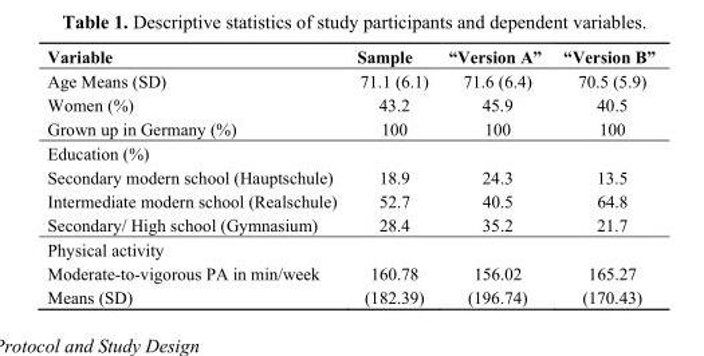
<table><thead><tr><td>Variable</td><td>Sample</td><td>“Version A”</td><td>“Version B”</td></tr></thead><tbody><tr><td>Age Means (SD)</td><td>71.1 (6.1)</td><td>71.6 (6.4)</td><td>70.5 (5.9)</td></tr><tr><td>Women (%)</td><td>43.2</td><td>45.9</td><td>40.5</td></tr><tr><td>Grown up in Germany (%)</td><td>100</td><td>100</td><td>100</td></tr><tr><td colspan="4">Education (%)</td></tr><tr><td>Secondary modern school (Hauptschule)</td><td>18.9</td><td>24.3</td><td>13.5</td></tr><tr><td>Intermediate modern school (Realschule)</td><td>52.7</td><td>40.5</td><td>64.8</td></tr><tr><td>Secondary/ High school (Gymnasium)</td><td>28.4</td><td>35.2</td><td>21.7</td></tr><tr><td colspan="4">Physical activity</td></tr><tr><td>Moderate-to-vigorous PA in min/week</td><td>160.78</td><td>156.02</td><td>165.27</td></tr><tr><td>Means (SD)</td><td>(182.39)</td><td>(196.74)</td><td>(170.43)</td></tr></tbody></table>